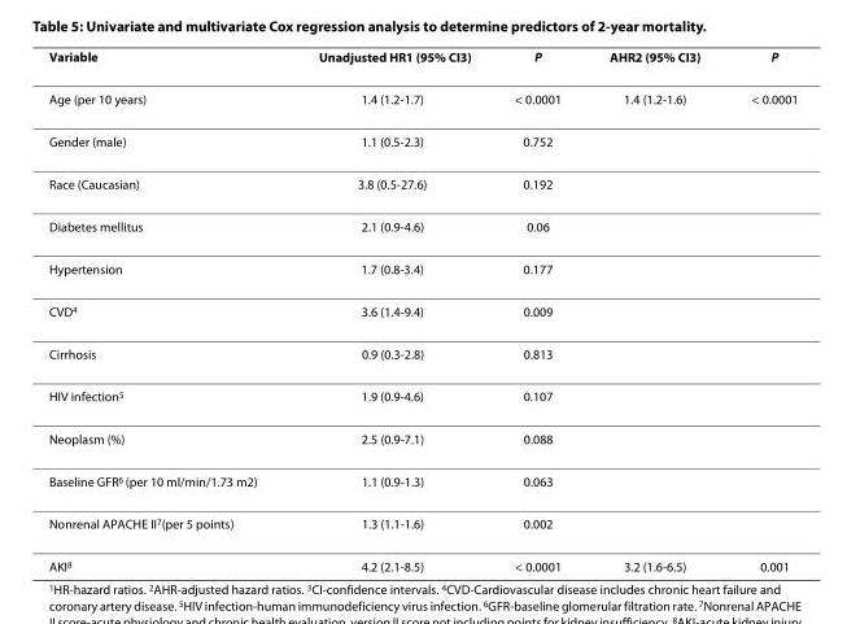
<table><thead><tr><td>Variable</td><td>Unadjusted HR<sup>1</sup> (95% CI<sup>3</sup>)</td><td>P</td><td>AHR<sup>2</sup> (95% CI<sup>3</sup>)</td><td>P</td></tr></thead><tbody><tr><td>Age (per 10 years)</td><td>1.4 (1.2-1.7)</td><td>&lt; 0.0001</td><td>1.4 (1.2-1.6)</td><td>&lt; 0.0001</td></tr><tr><td>Gender (male)</td><td>1.1 (0.5-2.3)</td><td>0.752</td><td></td><td></td></tr><tr><td>Race (Caucasian)</td><td>3.8 (0.5-27.6)</td><td>0.192</td><td></td><td></td></tr><tr><td>Diabetes mellitus</td><td>2.1 (0.9-4.6)</td><td>0.06</td><td></td><td></td></tr><tr><td>Hypertension</td><td>1.7 (0.8-3.4)</td><td>0.177</td><td></td><td></td></tr><tr><td>CVD<sup>4</sup></td><td>3.6 (1.4-9.4)</td><td>0.009</td><td></td><td></td></tr><tr><td>Cirrhosis</td><td>0.9 (0.3-2.8)</td><td>0.813</td><td></td><td></td></tr><tr><td>HIV infection<sup>5</sup></td><td>1.9 (0.9-4.6)</td><td>0.107</td><td></td><td></td></tr><tr><td>Neoplasm (%)</td><td>2.5 (0.9-7.1)</td><td>0.088</td><td></td><td></td></tr><tr><td>Baseline GFR<sup>6</sup> (per 10 ml/min/1.73 m2)</td><td>1.1 (0.9-1.3)</td><td>0.063</td><td></td><td></td></tr><tr><td>Nonrenal APACHE II<sup>7</sup>(per 5 points)</td><td>1.3 (1.1-1.6)</td><td>0.002</td><td></td><td></td></tr><tr><td>AKI<sup>8</sup></td><td>4.2 (2.1-8.5)</td><td>&lt; 0.0001</td><td>3.2 (1.6-6.5)</td><td>0.001</td></tr></tbody></table>